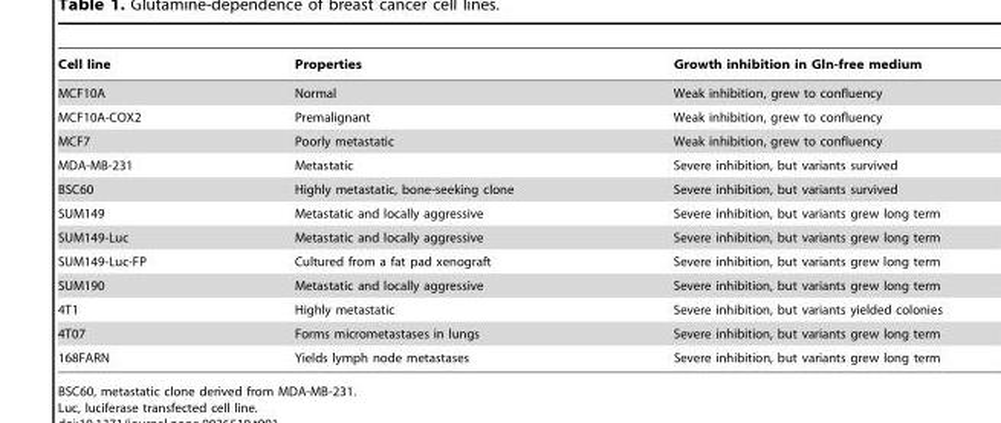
<table><thead><tr><td>Cell line</td><td>Properties</td><td>Growth inhibition in Gln-free medium</td></tr></thead><tbody><tr><td>MCF10A</td><td>Normal</td><td>Weak inhibition, grew to confluency</td></tr><tr><td>MCF10A-COX2</td><td>Premalignant</td><td>Weak inhibition, grew to confluency</td></tr><tr><td>MCF7</td><td>Poorly metastatic</td><td>Weak inhibition, grew to confluency</td></tr><tr><td>MDA-MB-231</td><td>Metastatic</td><td>Severe inhibition, but variants survived</td></tr><tr><td>BSC60</td><td>Highly metastatic, bone-seeking clone</td><td>Severe inhibition, but variants survived</td></tr><tr><td>SUM149</td><td>Metastatic and locally aggressive</td><td>Severe inhibition, but variants grew long term</td></tr><tr><td>SUM149-Luc</td><td>Metastatic and locally aggressive</td><td>Severe inhibition, but variants grew long term</td></tr><tr><td>SUM149-Luc-FP</td><td>Cultured from a fat pad xenograft</td><td>Severe inhibition, but variants grew long term</td></tr><tr><td>SUM190</td><td>Metastatic and locally aggressive</td><td>Severe inhibition, but variants grew long term</td></tr><tr><td>4T1</td><td>Highly metastatic</td><td>Severe inhibition, but variants yielded colonies</td></tr><tr><td>4T07</td><td>Forms micrometastases in lungs</td><td>Severe inhibition, but variants grew long term</td></tr><tr><td>168FARN</td><td>Yields lymph node metastases</td><td>Severe inhibition, but variants grew long term</td></tr></tbody></table>